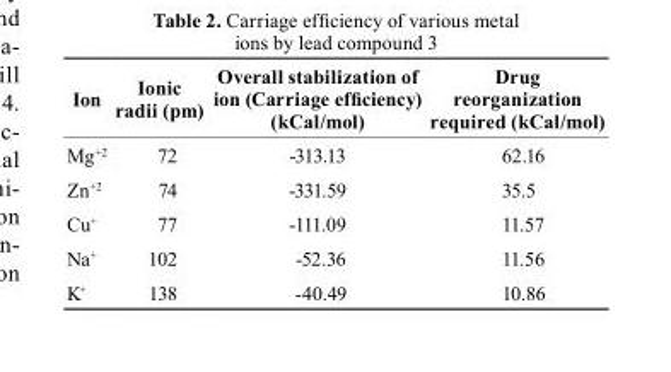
<table><thead><tr><td>Ion</td><td>Ionic radii (pm)</td><td>overall stabilization of ion (Carriage efficiency) (kCal/mol)</td><td>Drug reorganization required (kCal/mol)</td></tr></thead><tbody><tr><td>Mg<sup>+2</sup></td><td>72</td><td>-313.13</td><td>62.16</td></tr><tr><td>Zn<sup>+2</sup></td><td>74</td><td>-331.59</td><td>35.5</td></tr><tr><td>Cu<sup>+</sup></td><td>77</td><td>-111.09</td><td>11.57</td></tr><tr><td>Na<sup>+</sup></td><td>102</td><td>-52.36</td><td>11.56</td></tr><tr><td>K<sup>+</sup></td><td>138</td><td>-40.49</td><td>10.86</td></tr></tbody></table>